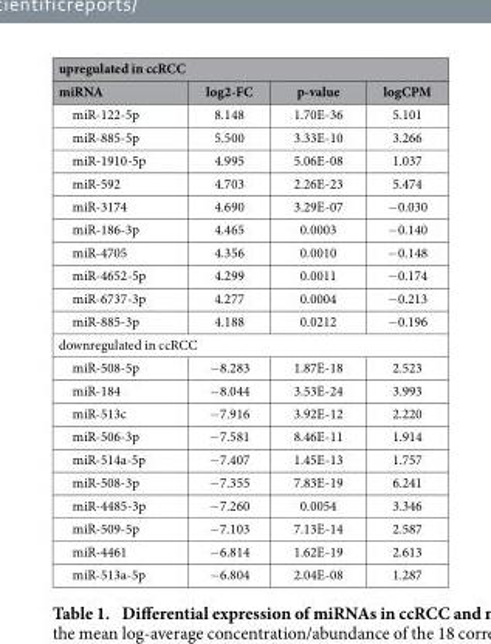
<table><thead><tr><td colspan="4">upregulated in ccRCC</td></tr><tr><td>miRNA</td><td>log2-FC</td><td>p-value</td><td>logCPM</td></tr></thead><tbody><tr><td>miR-122-5p</td><td>8.148</td><td>1.70E-36</td><td>5.101</td></tr><tr><td>miR-885-5p</td><td>5.500</td><td>3.33E-10</td><td>3.266</td></tr><tr><td>miR-1910-5p</td><td>4.995</td><td>5.06E-08</td><td>1.037</td></tr><tr><td>miR-592</td><td>4.703</td><td>2.26E-23</td><td>5.474</td></tr><tr><td>miR-3174</td><td>4.690</td><td>3.29E-07</td><td>− 0.030</td></tr><tr><td>miR-186-3p</td><td>4.465</td><td>0.0003</td><td>− 0.140</td></tr><tr><td>miR-4705</td><td>4.356</td><td>0.0010</td><td>− 0.148</td></tr><tr><td>miR-4652-5p</td><td>4.299</td><td>0.0011</td><td>− 0.174</td></tr><tr><td>miR-6737-3p</td><td>4.277</td><td>0.0004</td><td>− 0.213</td></tr><tr><td>miR-885-3p</td><td>4.188</td><td>0.0212</td><td>− 0.196</td></tr><tr><td colspan="4">downregulated in ccRCC</td></tr><tr><td>miR-508-5p</td><td>− 8.283</td><td>1.87E-18</td><td>2.523</td></tr><tr><td>miR-184</td><td>− 8.044</td><td>3.53E-24</td><td>3.993</td></tr><tr><td>miR-513c</td><td>− 7.916</td><td>3.92E-12</td><td>2.220</td></tr><tr><td>miR-506-3p</td><td>− 7.581</td><td>8.46E-11</td><td>1.914</td></tr><tr><td>miR-514a-5p</td><td>− 7.407</td><td>1.45E-13</td><td>1.757</td></tr><tr><td>miR-508-3p</td><td>− 7.355</td><td>7.83E-19</td><td>6.241</td></tr><tr><td>miR-4485-3p</td><td>− 7.260</td><td>0.0054</td><td>3.346</td></tr><tr><td>miR-509-5p</td><td>− 7.103</td><td>7.13E-14</td><td>2.587</td></tr><tr><td>miR-4461</td><td>− 6.814</td><td>1.62E-19</td><td>2.613</td></tr><tr><td>miR-513a-5p</td><td>− 6.804</td><td>2.04E-08</td><td>1.287</td></tr></tbody></table>